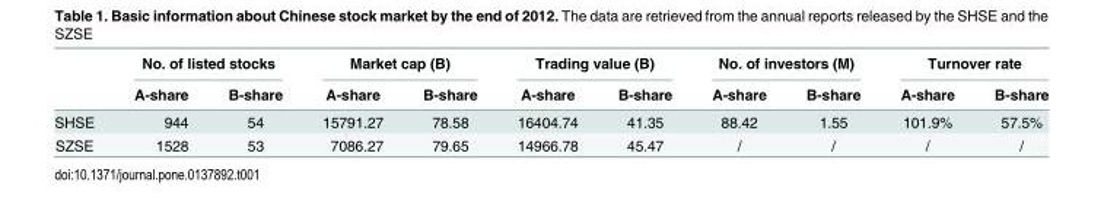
<table><thead><tr><td rowspan="2"></td><td colspan="2">No. of listed stocks</td><td colspan="2">Market cap (B)</td><td colspan="2">Trading value (B)</td><td colspan="2">No. of investors (M)</td><td colspan="2">Turnover rate</td></tr><tr><td>A-share</td><td>B-share</td><td>A-share</td><td>B-share</td><td>A-share</td><td>B-share</td><td>A-share</td><td>B-share</td><td>A-share</td><td>B-share</td></tr></thead><tbody><tr><td>SHSE</td><td>944</td><td>54</td><td>15791.27</td><td>78.58</td><td>16404.74</td><td>41.35</td><td>88.42</td><td>1.55</td><td>101.9%</td><td>57.5%</td></tr><tr><td>SZSE</td><td>1528</td><td>53</td><td>7086.27</td><td>79.65</td><td>14966.78</td><td>45.47</td><td>/</td><td>/</td><td>/</td><td>/</td></tr></tbody></table>